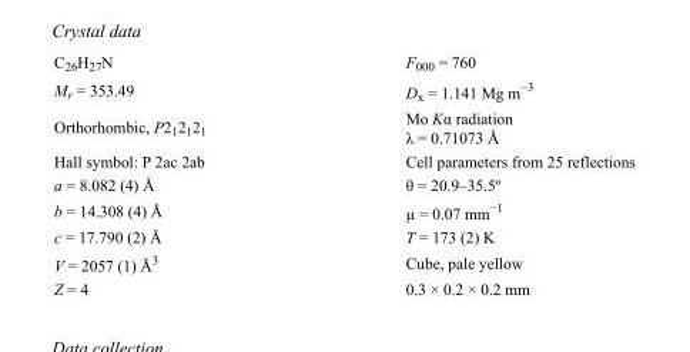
<table><tbody><tr><td>C<sub>26</sub>H<sub>27</sub>N</td><td>F000 = 760</td></tr><tr><td>M<sub>r</sub> = 353.49</td><td>D<sub>x</sub> = 1.141 Mg m<sup>−3</sup></td></tr><tr><td>Orthorhombic, P2<sub>1</sub>2<sub>1</sub>2<sub>1</sub></td><td>Mo Kα radiation λ = 0.71073 Å</td></tr><tr><td>Hall symbol: P 2ac 2ab</td><td>Cell parameters from 25 reflections</td></tr><tr><td>a = 8.082 (4) Å</td><td>θ = 20.9–35.5º</td></tr><tr><td>b = 14.308 (4) Å</td><td>µ = 0.07 mm<sup>−1</sup></td></tr><tr><td>c = 17.790 (2) Å</td><td>T = 173 (2) K</td></tr><tr><td>V = 2057 (1) Å<sup>3</sup></td><td>Cube, pale yellow</td></tr><tr><td>Z = 4</td><td>0.3 × 0.2 × 0.2 mm</td></tr></tbody></table>